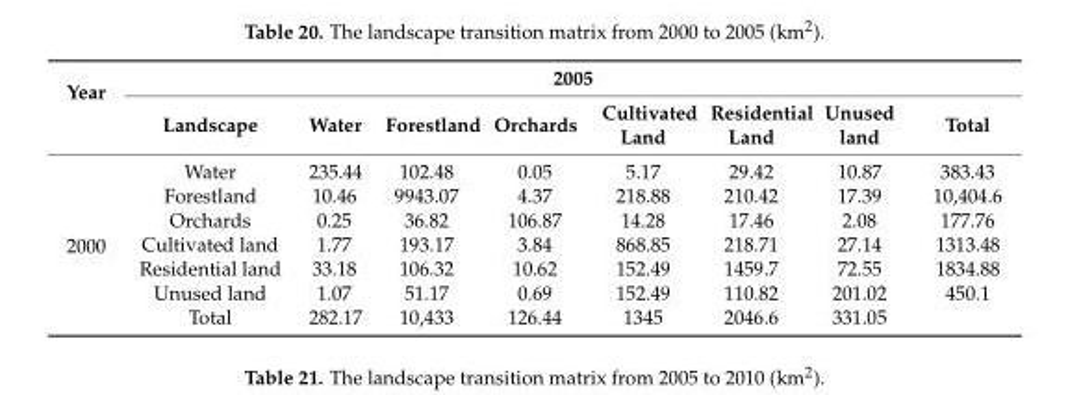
<table><thead><tr><td rowspan="2">Year</td><td colspan="8">2005</td></tr><tr><td>Landscape</td><td>Water</td><td>Forestland</td><td>Orchards</td><td>Cultivated Land</td><td>Residential Land</td><td>Unused land</td><td>Total</td></tr></thead><tbody><tr><td rowspan="7">2000</td><td>Water</td><td>235.44</td><td>102.48</td><td>0.05</td><td>5.17</td><td>29.42</td><td>10.87</td><td>383.43</td></tr><tr><td>Forestland</td><td>10.46</td><td>9943.07</td><td>4.37</td><td>218.88</td><td>210.42</td><td>17.39</td><td>10,404.6</td></tr><tr><td>Orchards</td><td>0.25</td><td>36.82</td><td>106.87</td><td>14.28</td><td>17.46</td><td>2.08</td><td>177.76</td></tr><tr><td>Cultivated land</td><td>1.77</td><td>193.17</td><td>3.84</td><td>868.85</td><td>218.71</td><td>27.14</td><td>1313.48</td></tr><tr><td>Residential land</td><td>33.18</td><td>106.32</td><td>10.62</td><td>152.49</td><td>1459.7</td><td>72.55</td><td>1834.88</td></tr><tr><td>Unused land</td><td>1.07</td><td>51.17</td><td>0.69</td><td>152.49</td><td>110.82</td><td>201.02</td><td>450.1</td></tr><tr><td>Total</td><td>282.17</td><td>10,433</td><td>126.44</td><td>1345</td><td>2046.6</td><td>331.05</td><td></td></tr></tbody></table>